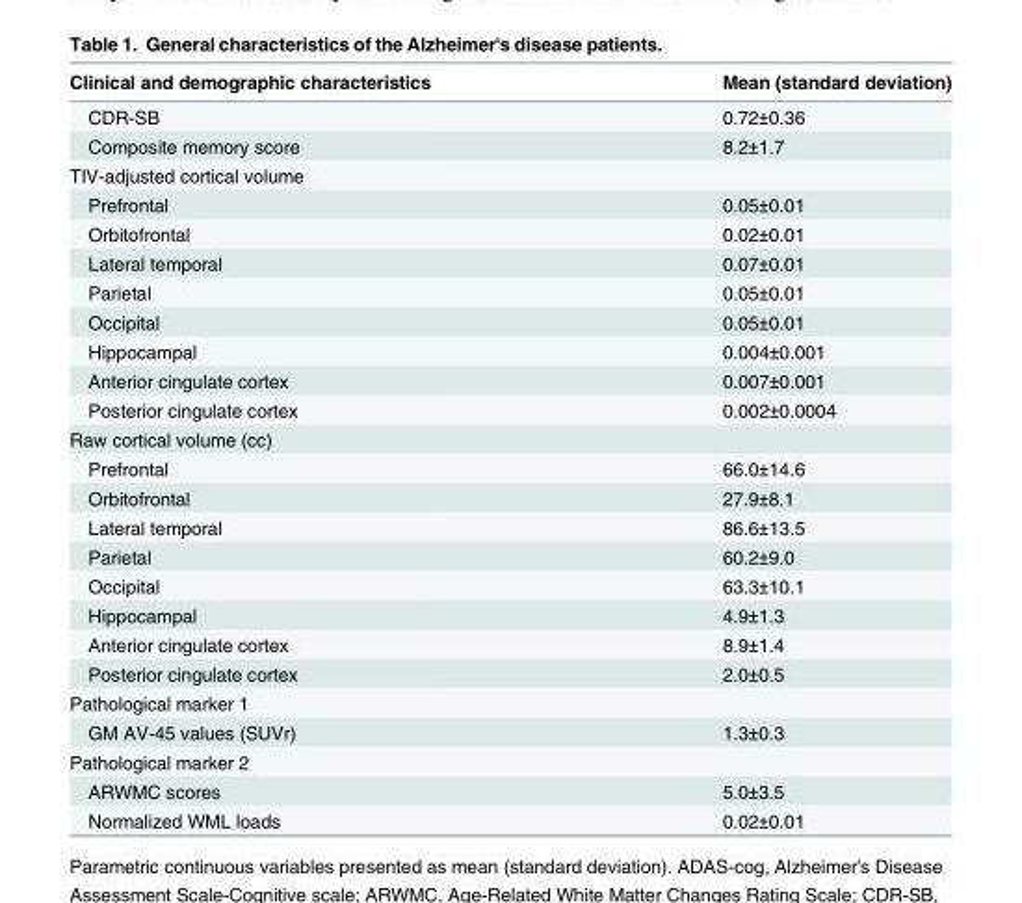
<table><thead><tr><td>Clinical and demographic characteristics</td><td>Mean (standard deviation)</td></tr></thead><tbody><tr><td>CDR-SB</td><td>0.72±0.36</td></tr><tr><td>Composite memory score</td><td>8.2±1.7</td></tr><tr><td colspan="2">TIV-adjusted cortical volume</td></tr><tr><td>Prefrontal</td><td>0.05±0.01</td></tr><tr><td>Orbitofrontal</td><td>0.02±0.01</td></tr><tr><td>Lateral temporal</td><td>0.07±0.01</td></tr><tr><td>Parietal</td><td>0.05±0.01</td></tr><tr><td>Occipital</td><td>0.05±0.01</td></tr><tr><td>Hippocampal</td><td>0.004±0.001</td></tr><tr><td>Anterior cingulate cortex</td><td>0.007±0.001</td></tr><tr><td>Posterior cingulate cortex</td><td>0.002±0.0004</td></tr><tr><td colspan="2">Raw cortical volume (cc)</td></tr><tr><td>Prefrontal</td><td>66.0±14.6</td></tr><tr><td>Orbitofrontal</td><td>27.9±8.1</td></tr><tr><td>Lateral temporal</td><td>86.6±13.5</td></tr><tr><td>Parietal</td><td>60.2±9.0</td></tr><tr><td>Occipital</td><td>63.3±10.1</td></tr><tr><td>Hippocampal</td><td>4.9±1.3</td></tr><tr><td>Anterior cingulate cortex</td><td>8.9±1.4</td></tr><tr><td>Posterior cingulate cortex</td><td>2.0±0.5</td></tr><tr><td colspan="2">Pathological marker 1</td></tr><tr><td>GM AV-45 values (SUVr)</td><td>1.3±0.3</td></tr><tr><td colspan="2">Pathological marker 2</td></tr><tr><td>ARWMC scores</td><td>5.0±3.5</td></tr><tr><td>Normalized WML loads</td><td>0.02±0.01</td></tr></tbody></table>